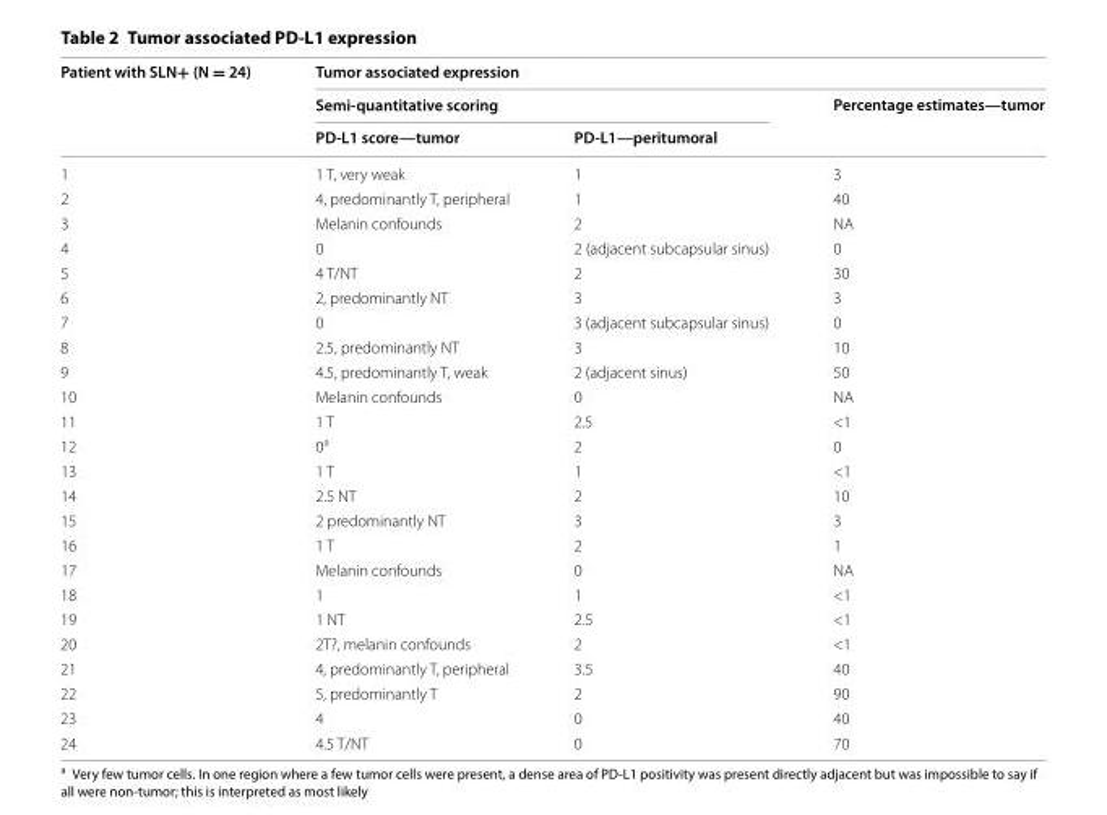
<table><thead><tr><td rowspan="3">Patient with SLN+ (N = 24)</td><td colspan="3">Tumor associated expression</td></tr><tr><td colspan="2">Semi-quantitative scoring</td><td rowspan="2">Percentage estimates—tumor</td></tr><tr><td>PD-L1 score—tumor</td><td>PD-L1—peritumoral</td></tr></thead><tbody><tr><td>1</td><td>1 T, very weak</td><td>1</td><td>3</td></tr><tr><td>2</td><td>4, predominantly T, peripheral</td><td>1</td><td>40</td></tr><tr><td>3</td><td>Melanin confounds</td><td>2</td><td>NA</td></tr><tr><td>4</td><td>0</td><td>2 (adjacent subcapsular sinus)</td><td>0</td></tr><tr><td>5</td><td>4 T/NT</td><td>2</td><td>30</td></tr><tr><td>6</td><td>2, predominantly NT</td><td>3</td><td>3</td></tr><tr><td>7</td><td>0</td><td>3 (adjacent subcapsular sinus)</td><td>0</td></tr><tr><td>8</td><td>2.5, predominantly NT</td><td>3</td><td>10</td></tr><tr><td>9</td><td>4.5, predominantly T, weak</td><td>2 (adjacent sinus)</td><td>50</td></tr><tr><td>10</td><td>Melanin confounds</td><td>0</td><td>NA</td></tr><tr><td>11</td><td>1 T</td><td>2.5</td><td>&lt;1</td></tr><tr><td>12</td><td>0<sup>a</sup></td><td>2</td><td>0</td></tr><tr><td>13</td><td>1 T</td><td>1</td><td>&lt;1</td></tr><tr><td>14</td><td>2.5 NT</td><td>2</td><td>10</td></tr><tr><td>15</td><td>2 predominantly NT</td><td>3</td><td>3</td></tr><tr><td>16</td><td>1 T</td><td>2</td><td>1</td></tr><tr><td>17</td><td>Melanin confounds</td><td>0</td><td>NA</td></tr><tr><td>18</td><td>1</td><td>1</td><td>&lt;1</td></tr><tr><td>19</td><td>1 NT</td><td>2.5</td><td>&lt;1</td></tr><tr><td>20</td><td>2T?, melanin confounds</td><td>2</td><td>&lt;1</td></tr><tr><td>21</td><td>4, predominantly T, peripheral</td><td>3.5</td><td>40</td></tr><tr><td>22</td><td>5, predominantly T</td><td>2</td><td>90</td></tr><tr><td>23</td><td>4</td><td>0</td><td>40</td></tr><tr><td>24</td><td>4.5 T/NT</td><td>0</td><td>70</td></tr></tbody></table>